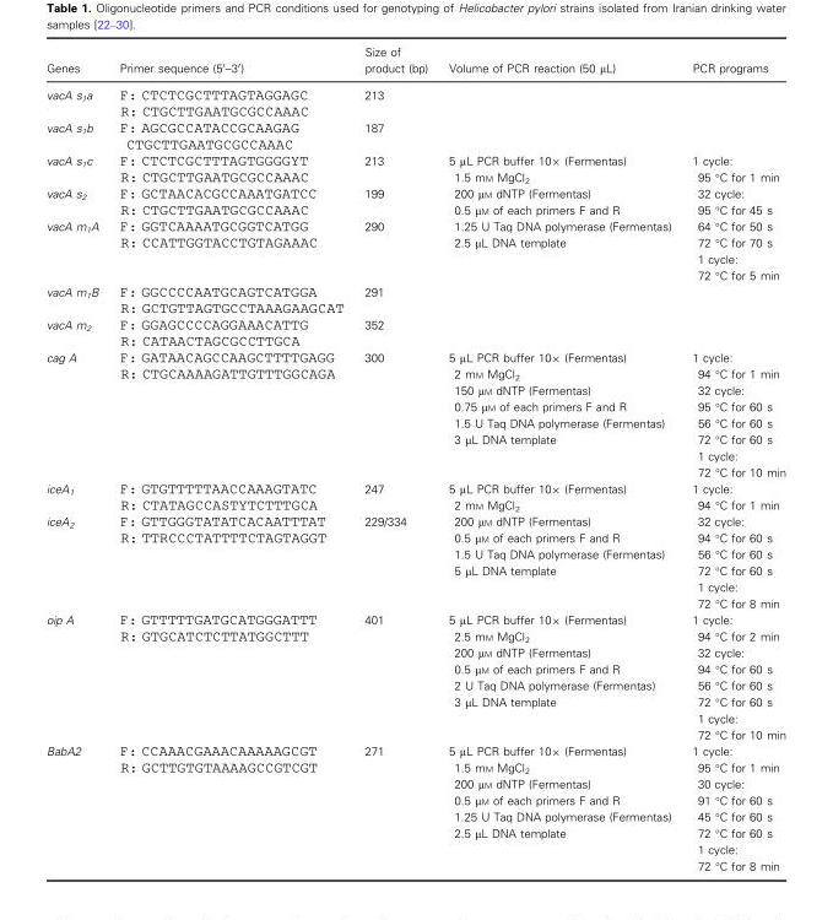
<table><thead><tr><td>Genes</td><td>Primer sequence (5′–3′)</td><td>Size of product (bp)</td><td>Volume of PCR reaction (50 μL)</td><td>PCR programs</td></tr></thead><tbody><tr><td>vacA s<sub>1</sub>a</td><td>F: CTCTCGCTTTAGTAGGAGC R: CTGCTTGAATGCGCCAAAC</td><td>213</td><td></td><td></td></tr><tr><td>vacA s<sub>1</sub>b</td><td>F: AGCGCCATACCGCAAGAG CTGCTTGAATGCGCCAAAC</td><td>187</td><td></td><td></td></tr><tr><td>vacA s<sub>1</sub>c</td><td>F: CTCTCGCTTTAGTGGGGYT R: CTGCTTGAATGCGCCAAAC</td><td>213</td><td rowspan="3">5 μL PCR buffer 10× (Fermentas) 1.5 mM MgCl<sub>2</sub> 200 μM dNTP (Fermentas) 0.5 μM of each primers F and R 1.25 U Taq DNA polymerase (Fermentas) 2.5 μL DNA template</td><td rowspan="3">1 cycle: 95 °C for 1 min 32 cycle: 95 °C for 45 s 64 °C for 50 s 72 °C for 70 s 1 cycle: 72 °C for 5 min</td></tr><tr><td>vacA s<sub>2</sub></td><td>F: GCTAACACGCCAAATGATCC R: CTGCTTGAATGCGCCAAAC</td><td>199</td></tr><tr><td>vacA m<sub>1</sub>A</td><td>F: GGTCAAAATGCGGTCATGG R: CCATTGGTACCTGTAGAAAC</td><td>290</td></tr><tr><td>vacA m<sub>1</sub>B</td><td>F: GGCCCCAATGCAGTCATGGA R: GCTGTTAGTGCCTAAAGAAGCAT</td><td>291</td><td></td><td></td></tr><tr><td>vacA m<sub>2</sub></td><td>F: GGAGCCCCAGGAAACATTG R: CATAACTAGCGCCTTGCA</td><td>352</td><td></td><td></td></tr><tr><td>cag A</td><td>F: GATAACAGCCAAGCTTTTGAGG R: CTGCAAAAGATTGTTTGGCAGA</td><td>300</td><td>5 μL PCR buffer 10× (Fermentas) 2 mM MgCl<sub>2</sub> 150 μM dNTP (Fermentas) 0.75 μM of each primers F and R 1.5 U Taq DNA polymerase (Fermentas) 3 μL DNA template</td><td>1 cycle: 94 °C for 1 min 32 cycle: 95 °C for 60 s 56 °C for 60 s 72 °C for 60 s 1 cycle: 72 °C for 10 min</td></tr><tr><td>iceA<sub>1</sub></td><td>F: GTGTTTTTAACCAAAGTATC R: CTATAGCCASTYTCTTTGCA</td><td>247</td><td rowspan="2">5 μL PCR buffer 10× (Fermentas) 2 mM MgCl<sub>2</sub> 200 μM dNTP (Fermentas) 0.5 μM of each primers F and R 1.5 U Taq DNA polymerase (Fermentas) 5 μL DNA template</td><td rowspan="2">1 cycle: 94 °C for 1 min 32 cycle: 94 °C for 60 s 56 °C for 60 s 72 °C for 60 s 1 cycle: 72 °C for 8 min</td></tr><tr><td>iceA<sub>2</sub></td><td>F: GTTGGGTATATCACAATTTAT R: TTRCCCTATTTTCTAGTAGGT</td><td>229/334</td></tr><tr><td>oip A</td><td>F: GTTTTTGATGCATGGGATTT R: GTGCATCTCTTATGGCTTT</td><td>401</td><td>5 μL PCR buffer 10× (Fermentas) 2.5 mM MgCl<sub>2</sub> 200 μM dNTP (Fermentas) 0.5 μM of each primers F and R 2 U Taq DNA polymerase (Fermentas) 3 μL DNA template</td><td>1 cycle: 94 °C for 2 min 32 cycle: 94 °C for 60 s 56 °C for 60 s 72 °C for 60 s 1 cycle: 72 °C for 10 min</td></tr><tr><td>BabA2</td><td>F: CCAAACGAAACAAAAAGCGT R: GCTTGTGTAAAAGCCGTCGT</td><td>271</td><td>5 μL PCR buffer 10× (Fermentas) 1.5 mM MgCl<sub>2</sub> 200 μM dNTP (Fermentas) 0.5 μM of each primers F and R 1.25 U Taq DNA polymerase (Fermentas) 2.5 μL DNA template</td><td>1 cycle: 95 °C for 1 min 30 cycle: 91 °C for 60 s 45 °C for 60 s 72 °C for 60 s 1 cycle: 72 °C for 8 min</td></tr></tbody></table>